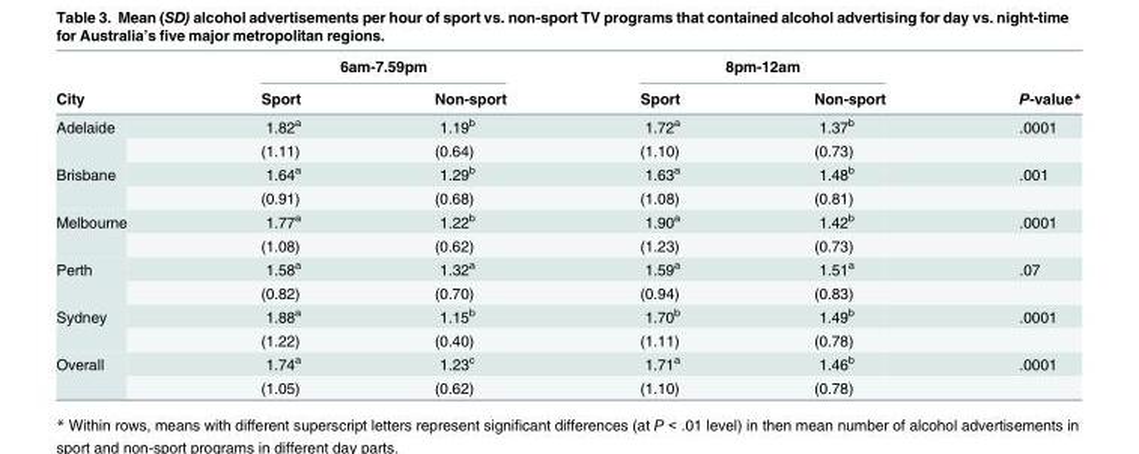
<table><thead><tr><td rowspan="2">City</td><td colspan="2">6am-7.59pm</td><td colspan="2">8pm-12am</td><td rowspan="2">P-value*</td></tr><tr><td>Sport</td><td>Non-sport</td><td>Sport</td><td>Non-sport</td></tr></thead><tbody><tr><td rowspan="2">Adelaide</td><td>1.82<sup>a</sup></td><td>1.19<sup>b</sup></td><td>1.72<sup>a</sup></td><td>1.37<sup>b</sup></td><td>.0001</td></tr><tr><td>(1.11)</td><td>(0.64)</td><td>(1.10)</td><td>(0.73)</td><td></td></tr><tr><td rowspan="2">Brisbane</td><td>1.64<sup>a</sup></td><td>1.29<sup>b</sup></td><td>1.63<sup>a</sup></td><td>1.48<sup>b</sup></td><td>.001</td></tr><tr><td>(0.91)</td><td>(0.68)</td><td>(1.08)</td><td>(0.81)</td><td></td></tr><tr><td rowspan="2">Melbourne</td><td>1.77<sup>a</sup></td><td>1.22<sup>b</sup></td><td>1.90<sup>a</sup></td><td>1.42<sup>b</sup></td><td>.0001</td></tr><tr><td>(1.08)</td><td>(0.62)</td><td>(1.23)</td><td>(0.73)</td><td></td></tr><tr><td rowspan="2">Perth</td><td>1.58<sup>a</sup></td><td>1.32<sup>a</sup></td><td>1.59<sup>a</sup></td><td>1.51<sup>a</sup></td><td>.07</td></tr><tr><td>(0.82)</td><td>(0.70)</td><td>(0.94)</td><td>(0.83)</td><td></td></tr><tr><td rowspan="2">Sydney</td><td>1.88<sup>a</sup></td><td>1.15<sup>b</sup></td><td>1.70<sup>b</sup></td><td>1.49<sup>b</sup></td><td>.0001</td></tr><tr><td>(1.22)</td><td>(0.40)</td><td>(1.11)</td><td>(0.78)</td><td></td></tr><tr><td rowspan="2">Overall</td><td>1.74<sup>a</sup></td><td>1.23<sup>c</sup></td><td>1.71<sup>a</sup></td><td>1.46<sup>b</sup></td><td>.0001</td></tr><tr><td>(1.05)</td><td>(0.62)</td><td>(1.10)</td><td>(0.78)</td><td></td></tr></tbody></table>